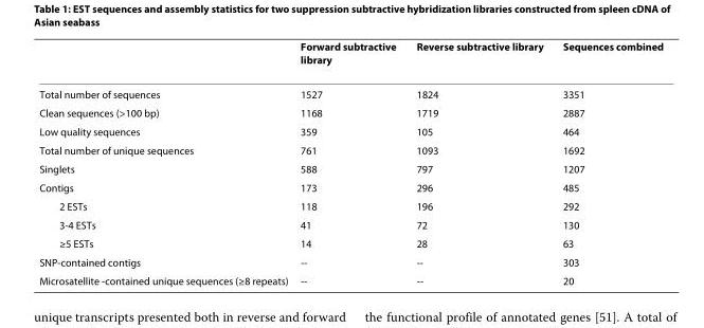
<table><thead><tr><td></td><td>Forward subtractive library</td><td>Reverse subtractive library</td><td>Sequences combined</td></tr></thead><tbody><tr><td>Total number of sequences</td><td>1527</td><td>1824</td><td>3351</td></tr><tr><td>Clean sequences (&gt;100 bp)</td><td>1168</td><td>1719</td><td>2887</td></tr><tr><td>Low quality sequences</td><td>359</td><td>105</td><td>464</td></tr><tr><td>Total number of unique sequences</td><td>761</td><td>1093</td><td>1692</td></tr><tr><td>Singlets</td><td>588</td><td>797</td><td>1207</td></tr><tr><td>Contigs</td><td>173</td><td>296</td><td>485</td></tr><tr><td>2 ESTs</td><td>118</td><td>196</td><td>292</td></tr><tr><td>3-4 ESTs</td><td>41</td><td>72</td><td>130</td></tr><tr><td>≥5 ESTs</td><td>14</td><td>28</td><td>63</td></tr><tr><td>SNP-contained contigs</td><td>--</td><td>--</td><td>303</td></tr><tr><td>Microsatellite -contained unique sequences (≥8 repeats)</td><td>--</td><td>--</td><td>20</td></tr></tbody></table>